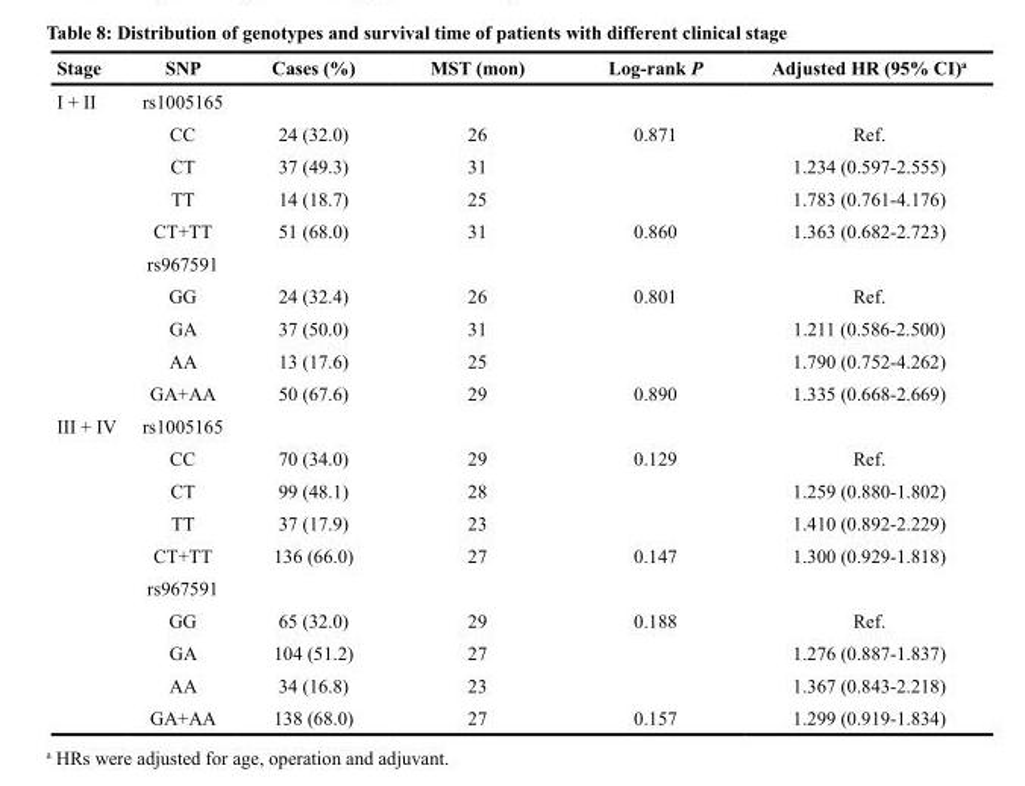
<table><thead><tr><td>Stage</td><td>SNP</td><td>Cases (%)</td><td>MST (mon)</td><td>Log-rank P</td><td>Adjusted HR (95% CI)<sup>a</sup></td></tr></thead><tbody><tr><td rowspan="10">I + II</td><td>rs1005165</td><td></td><td></td><td></td><td></td></tr><tr><td>CC</td><td>24 (32.0)</td><td>26</td><td rowspan="3">0.871</td><td>Ref.</td></tr><tr><td>CT</td><td>37 (49.3)</td><td>31</td><td>1.234 (0.597-2.555)</td></tr><tr><td>TT</td><td>14 (18.7)</td><td>25</td><td>1.783 (0.761-4.176)</td></tr><tr><td>CT+TT</td><td>51 (68.0)</td><td>31</td><td>0.860</td><td>1.363 (0.682-2.723)</td></tr><tr><td>rs967591</td><td></td><td></td><td></td><td></td></tr><tr><td>GG</td><td>24 (32.4)</td><td>26</td><td rowspan="3">0.801</td><td>Ref.</td></tr><tr><td>GA</td><td>37 (50.0)</td><td>31</td><td>1.211 (0.586-2.500)</td></tr><tr><td>AA</td><td>13 (17.6)</td><td>25</td><td>1.790 (0.752-4.262)</td></tr><tr><td>GA+AA</td><td>50 (67.6)</td><td>29</td><td>0.890</td><td>1.335 (0.668-2.669)</td></tr><tr><td rowspan="10">III + IV</td><td>rs1005165</td><td></td><td></td><td></td><td></td></tr><tr><td>CC</td><td>70 (34.0)</td><td>29</td><td>0.129</td><td>Ref.</td></tr><tr><td>CT</td><td>99 (48.1)</td><td>28</td><td></td><td>1.259 (0.880-1.802)</td></tr><tr><td>TT</td><td>37 (17.9)</td><td>23</td><td></td><td>1.410 (0.892-2.229)</td></tr><tr><td>CT+TT</td><td>136 (66.0)</td><td>27</td><td>0.147</td><td>1.300 (0.929-1.818)</td></tr><tr><td>rs967591</td><td></td><td></td><td></td><td></td></tr><tr><td>GG</td><td>65 (32.0)</td><td>29</td><td rowspan="3">0.188</td><td>Ref.</td></tr><tr><td>GA</td><td>104 (51.2)</td><td>27</td><td>1.276 (0.887-1.837)</td></tr><tr><td>AA</td><td>34 (16.8)</td><td>23</td><td>1.367 (0.843-2.218)</td></tr><tr><td>GA+AA</td><td>138 (68.0)</td><td>27</td><td>0.157</td><td>1.299 (0.919-1.834)</td></tr></tbody></table>